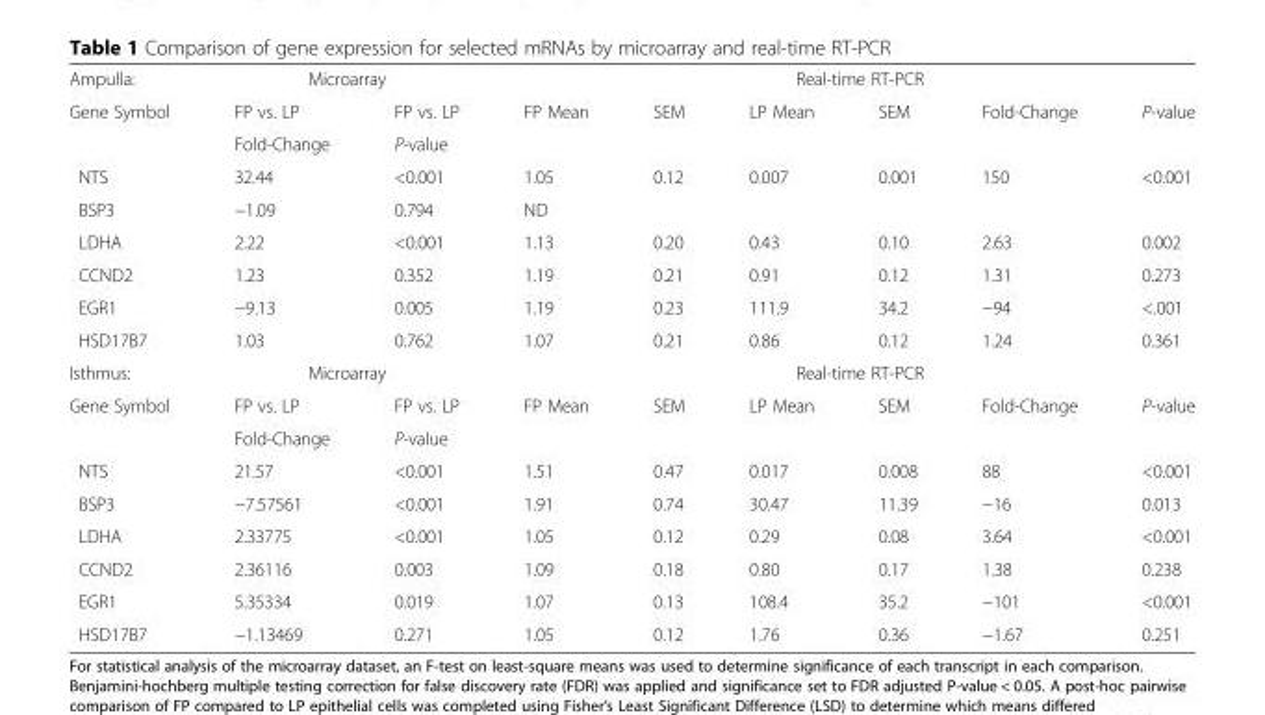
<table><tbody><tr><td>Ampulla:</td><td colspan="2">Microarray</td><td colspan="6">Real-time RT-PCR</td></tr><tr><td rowspan="2">Gene Symbol</td><td>FP vs. LP</td><td>FP vs. LP</td><td rowspan="2">FP Mean</td><td rowspan="2">SEM</td><td rowspan="2">LP Mean</td><td rowspan="2">SEM</td><td rowspan="2">Fold-Change</td><td rowspan="2">P-value</td></tr><tr><td>Fold-Change</td><td>P-value</td></tr><tr><td>NTS</td><td>32.44</td><td>&lt;0.001</td><td>1.05</td><td>0.12</td><td>0.007</td><td>0.001</td><td>150</td><td>&lt;0.001</td></tr><tr><td>BSP3</td><td>−1.09</td><td>0.794</td><td>ND</td><td></td><td></td><td></td><td></td><td></td></tr><tr><td>LDHA</td><td>2.22</td><td>&lt;0.001</td><td>1.13</td><td>0.20</td><td>0.43</td><td>0.10</td><td>2.63</td><td>0.002</td></tr><tr><td>CCND2</td><td>1.23</td><td>0.352</td><td>1.19</td><td>0.21</td><td>0.91</td><td>0.12</td><td>1.31</td><td>0.273</td></tr><tr><td>EGR1</td><td>−9.13</td><td>0.005</td><td>1.19</td><td>0.23</td><td>111.9</td><td>34.2</td><td>−94</td><td>&lt;.001</td></tr><tr><td>HSD17B7</td><td>1.03</td><td>0.762</td><td>1.07</td><td>0.21</td><td>0.86</td><td>0.12</td><td>1.24</td><td>0.361</td></tr><tr><td>Isthmus:</td><td colspan="2">Microarray</td><td colspan="6">Real-time RT-PCR</td></tr><tr><td rowspan="2">Gene Symbol</td><td>FP vs. LP</td><td>FP vs. LP</td><td rowspan="2">FP Mean</td><td rowspan="2">SEM</td><td rowspan="2">LP Mean</td><td rowspan="2">SEM</td><td rowspan="2">Fold-Change</td><td rowspan="2">P-value</td></tr><tr><td>Fold-Change</td><td>P-value</td></tr><tr><td>NTS</td><td>21.57</td><td>&lt;0.001</td><td>1.51</td><td>0.47</td><td>0.017</td><td>0.008</td><td>88</td><td>&lt;0.001</td></tr><tr><td>BSP3</td><td>−7.57561</td><td>&lt;0.001</td><td>1.91</td><td>0.74</td><td>30.47</td><td>11.39</td><td>−16</td><td>0.013</td></tr><tr><td>LDHA</td><td>2.33775</td><td>&lt;0.001</td><td>1.05</td><td>0.12</td><td>0.29</td><td>0.08</td><td>3.64</td><td>&lt;0.001</td></tr><tr><td>CCND2</td><td>2.36116</td><td>0.003</td><td>1.09</td><td>0.18</td><td>0.80</td><td>0.17</td><td>1.38</td><td>0.238</td></tr><tr><td>EGR1</td><td>5.35334</td><td>0.019</td><td>1.07</td><td>0.13</td><td>108.4</td><td>35.2</td><td>−101</td><td>&lt;0.001</td></tr><tr><td>HSD17B7</td><td>−1.13469</td><td>0.271</td><td>1.05</td><td>0.12</td><td>1.76</td><td>0.36</td><td>−1.67</td><td>0.251</td></tr></tbody></table>